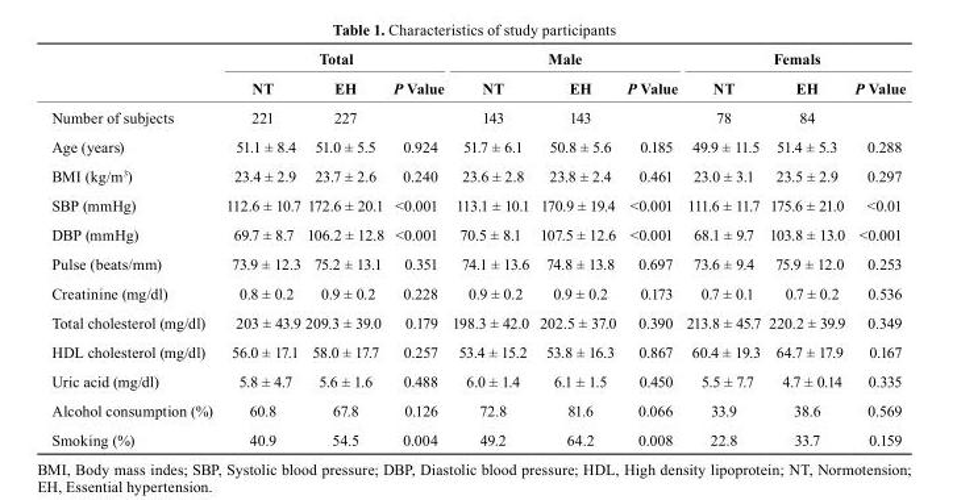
<table><thead><tr><td rowspan="2"></td><td colspan="3">total</td><td colspan="3">Male</td><td colspan="3">Femals</td></tr><tr><td>Nt</td><td>EH</td><td>P Value</td><td>Nt</td><td>EH</td><td>P Value</td><td>Nt</td><td>EH</td><td>P Value</td></tr></thead><tbody><tr><td>Number of subjects</td><td>221</td><td>227</td><td></td><td>143</td><td>143</td><td></td><td>78</td><td>84</td><td></td></tr><tr><td>Age (years)</td><td>51.1 ± 8.4</td><td>51.0 ± 5.5</td><td>0.924</td><td>51.7 ± 6.1</td><td>50.8 ± 5.6</td><td>0.185</td><td>49.9 ± 11.5</td><td>51.4 ± 5.3</td><td>0.288</td></tr><tr><td>BMI (kg/m<sup>3</sup>)</td><td>23.4 ± 2.9</td><td>23.7 ± 2.6</td><td>0.240</td><td>23.6 ± 2.8</td><td>23.8 ± 2.4</td><td>0.461</td><td>23.0 ± 3.1</td><td>23.5 ± 2.9</td><td>0.297</td></tr><tr><td>SBP (mmHg)</td><td>112.6 ± 10.7</td><td>172.6 ± 20.1</td><td>&lt;0.001</td><td>113.1 ± 10.1</td><td>170.9 ± 19.4</td><td>&lt;0.001</td><td>111.6 ± 11.7</td><td>175.6 ± 21.0</td><td>&lt;0.01</td></tr><tr><td>DBP (mmHg)</td><td>69.7 ± 8.7</td><td>106.2 ± 12.8</td><td>&lt;0.001</td><td>70.5 ± 8.1</td><td>107.5 ± 12.6</td><td>&lt;0.001</td><td>68.1 ± 9.7</td><td>103.8 ± 13.0</td><td>&lt;0.001</td></tr><tr><td>Pulse (beats/mm)</td><td>73.9 ± 12.3</td><td>75.2 ± 13.1</td><td>0.351</td><td>74.1 ± 13.6</td><td>74.8 ± 13.8</td><td>0.697</td><td>73.6 ± 9.4</td><td>75.9 ± 12.0</td><td>0.253</td></tr><tr><td>Creatinine (mg/dl)</td><td>0.8 ± 0.2</td><td>0.9 ± 0.2</td><td>0.228</td><td>0.9 ± 0.2</td><td>0.9 ± 0.2</td><td>0.173</td><td>0.7 ± 0.1</td><td>0.7 ± 0.2</td><td>0.536</td></tr><tr><td>Total cholesterol (mg/dl)</td><td>203 ± 43.9</td><td>209.3 ± 39.0</td><td>0.179</td><td>198.3 ± 42.0</td><td>202.5 ± 37.0</td><td>0.390</td><td>213.8 ± 45.7</td><td>220.2 ± 39.9</td><td>0.349</td></tr><tr><td>HDL cholesterol (mg/dl)</td><td>56.0 ± 17.1</td><td>58.0 ± 17.7</td><td>0.257</td><td>53.4 ± 15.2</td><td>53.8 ± 16.3</td><td>0.867</td><td>60.4 ± 19.3</td><td>64.7 ± 17.9</td><td>0.167</td></tr><tr><td>Uric acid (mg/dl)</td><td>5.8 ± 4.7</td><td>5.6 ± 1.6</td><td>0.488</td><td>6.0 ± 1.4</td><td>6.1 ± 1.5</td><td>0.450</td><td>5.5 ± 7.7</td><td>4.7 ± 0.14</td><td>0.335</td></tr><tr><td>Alcohol consumption (%)</td><td>60.8</td><td>67.8</td><td>0.126</td><td>72.8</td><td>81.6</td><td>0.066</td><td>33.9</td><td>38.6</td><td>0.569</td></tr><tr><td>Smoking (%)</td><td>40.9</td><td>54.5</td><td>0.004</td><td>49.2</td><td>64.2</td><td>0.008</td><td>22.8</td><td>33.7</td><td>0.159</td></tr></tbody></table>